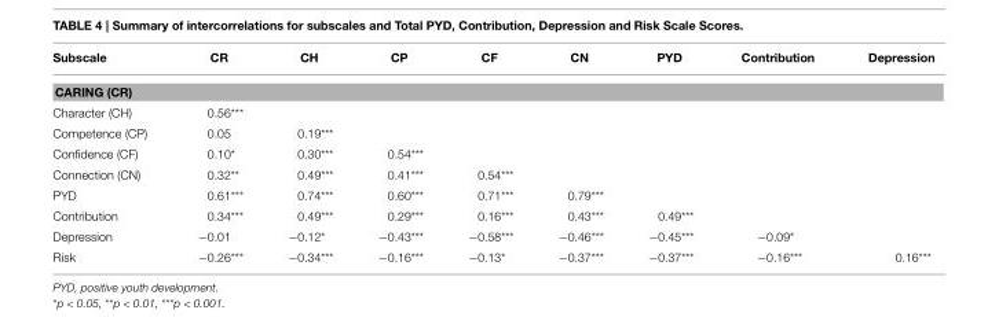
<table><thead><tr><td>Subscale</td><td>CR</td><td>CH</td><td>CP</td><td>CF</td><td>CN</td><td>PYD</td><td>Contribution</td><td>Depression</td></tr></thead><tbody><tr><td colspan="9">CARING (CR)</td></tr><tr><td>Character (CH)</td><td>0.56***</td><td></td><td></td><td></td><td></td><td></td><td></td><td></td></tr><tr><td>Competence (CP)</td><td>0.05</td><td>0.19***</td><td></td><td></td><td></td><td></td><td></td><td></td></tr><tr><td>Confidence (CF)</td><td>0.10*</td><td>0.30***</td><td>0.54***</td><td></td><td></td><td></td><td></td><td></td></tr><tr><td>Connection (CN)</td><td>0.32**</td><td>0.49***</td><td>0.41***</td><td>0.54***</td><td></td><td></td><td></td><td></td></tr><tr><td>PYD</td><td>0.61***</td><td>0.74***</td><td>0.60***</td><td>0.71***</td><td>0.79***</td><td></td><td></td><td></td></tr><tr><td>Contribution</td><td>0.34***</td><td>0.49***</td><td>0.29***</td><td>0.16***</td><td>0.43***</td><td>0.49***</td><td></td><td></td></tr><tr><td>Depression</td><td>−0.01</td><td>−0.12*</td><td>−0.43***</td><td>−0.58***</td><td>−0.46***</td><td>−0.45***</td><td>−0.09*</td><td></td></tr><tr><td>Risk</td><td>−0.26***</td><td>−0.34***</td><td>−0.16***</td><td>−0.13*</td><td>−0.37***</td><td>−0.37***</td><td>−0.16***</td><td>0.16***</td></tr></tbody></table>